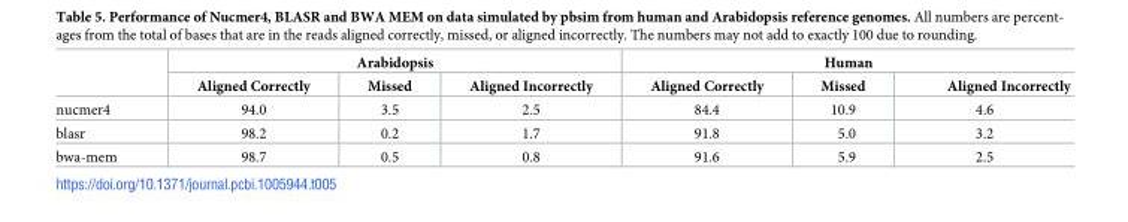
<table><thead><tr><td rowspan="2"></td><td colspan="3">Arabidopsis</td><td colspan="3">Human</td></tr><tr><td>Aligned Correctly</td><td>Missed</td><td>Aligned Incorrectly</td><td>Aligned Correctly</td><td>Missed</td><td>Aligned Incorrectly</td></tr></thead><tbody><tr><td>nucmer4</td><td>94.0</td><td>3.5</td><td>2.5</td><td>84.4</td><td>10.9</td><td>4.6</td></tr><tr><td>blasr</td><td>98.2</td><td>0.2</td><td>1.7</td><td>91.8</td><td>5.0</td><td>3.2</td></tr><tr><td>bwa-mem</td><td>98.7</td><td>0.5</td><td>0.8</td><td>91.6</td><td>5.9</td><td>2.5</td></tr></tbody></table>